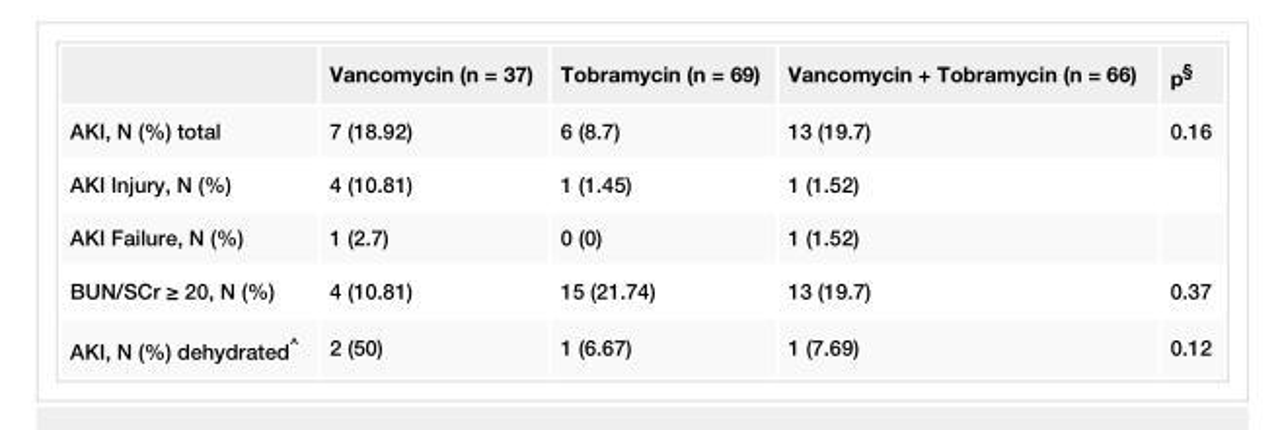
<table><thead><tr><td></td><td>Vancomycin (n = 37)</td><td>Tobramycin (n = 69)</td><td>Vancomycin + Tobramycin (n = 66)</td><td>p<sup>§</sup></td></tr></thead><tbody><tr><td>AKI, N (%) total</td><td>7 (18.92)</td><td>6 (8.7)</td><td>13 (19.7)</td><td>0.16</td></tr><tr><td>AKI Injury, N (%)</td><td>4 (10.81)</td><td>1 (1.45)</td><td>1 (1.52)</td><td></td></tr><tr><td>AKI Failure, N (%)</td><td>1 (2.7)</td><td>0 (0)</td><td>1 (1.52)</td><td></td></tr><tr><td>BUN/SCr ≥ 20, N (%)</td><td>4 (10.81)</td><td>15 (21.74)</td><td>13 (19.7)</td><td>0.37</td></tr><tr><td>AKI, N (%) dehydrated<sup>^</sup></td><td>2 (50)</td><td>1 (6.67)</td><td>1 (7.69)</td><td>0.12</td></tr></tbody></table>